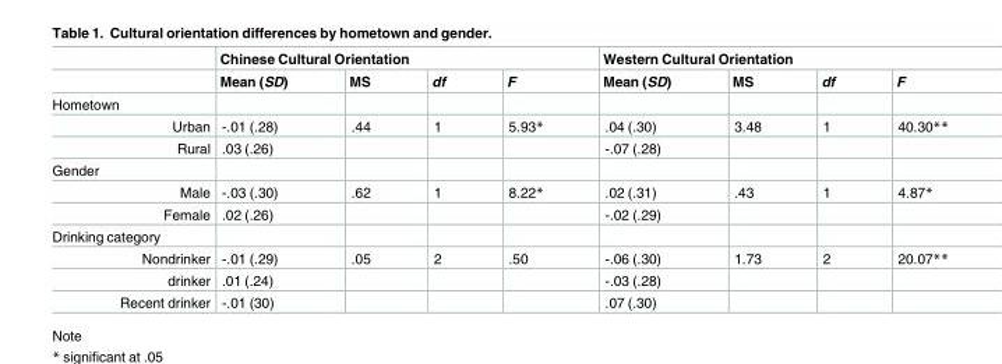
<table><thead><tr><td rowspan="2"></td><td colspan="4">Chinese Cultural Orientation</td><td colspan="4">Western Cultural Orientation</td></tr><tr><td>Mean (SD)</td><td>MS</td><td>df</td><td>F</td><td>Mean (SD)</td><td>MS</td><td>df</td><td>F</td></tr></thead><tbody><tr><td colspan="9">Hometown</td></tr><tr><td>Urban</td><td>-.01 (.28)</td><td>.44</td><td>1</td><td>5.93*</td><td>.04 (.30)</td><td>3.48</td><td>1</td><td>40.30**</td></tr><tr><td>Rural</td><td>.03 (.26)</td><td></td><td></td><td></td><td>-.07 (.28)</td><td></td><td></td><td></td></tr><tr><td colspan="9">Gender</td></tr><tr><td>Male</td><td>-.03 (.30)</td><td>.62</td><td>1</td><td>8.22*</td><td>.02 (.31)</td><td>.43</td><td>1</td><td>4.87*</td></tr><tr><td>Female</td><td>.02 (.26)</td><td></td><td></td><td></td><td>-.02 (.29)</td><td></td><td></td><td></td></tr><tr><td colspan="9">Drinking category</td></tr><tr><td>Nondrinker</td><td>-.01 (.29)</td><td>.05</td><td>2</td><td>.50</td><td>-.06 (.30)</td><td>1.73</td><td>2</td><td>20.07**</td></tr><tr><td>drinker</td><td>.01 (.24)</td><td></td><td></td><td></td><td>-.03 (.28)</td><td></td><td></td><td></td></tr><tr><td>Recent drinker</td><td>-.01 (30)</td><td></td><td></td><td></td><td>.07 (.30)</td><td></td><td></td><td></td></tr></tbody></table>